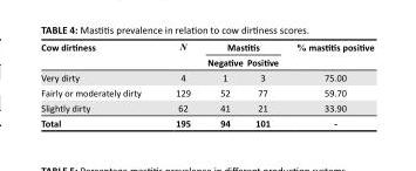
<table><thead><tr><td rowspan="2">Cow dirtiness</td><td rowspan="2">N</td><td colspan="2">Mastitis</td><td rowspan="2">% mastitis positive</td></tr><tr><td>Negative</td><td>Positive</td></tr></thead><tbody><tr><td>Very dirty</td><td>4</td><td>1</td><td>3</td><td>75.00</td></tr><tr><td>Fairly or moderately dirty</td><td>129</td><td>52</td><td>77</td><td>59.70</td></tr><tr><td>Slightly dirty</td><td>62</td><td>41</td><td>21</td><td>33.90</td></tr><tr><td>Total</td><td>195</td><td>94</td><td>101</td><td>-</td></tr></tbody></table>